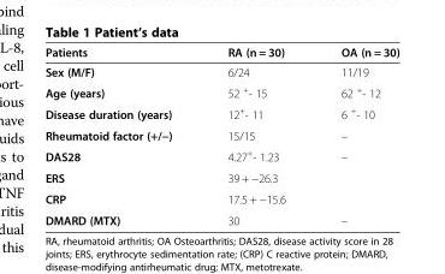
<table><thead><tr><td>Patients</td><td>RA (n = 30)</td><td>OA (n = 30)</td></tr></thead><tbody><tr><td>Sex (M/F)</td><td>6/24</td><td>11/19</td></tr><tr><td>Age (years)</td><td>52 <sup>+</sup>- 15</td><td>62 <sup>+</sup>- 12</td></tr><tr><td>Disease duration (years)</td><td>12<sup>+</sup>- 11</td><td>6 <sup>+</sup>- 10</td></tr><tr><td>Rheumatoid factor (+/−)</td><td>15/15</td><td>–</td></tr><tr><td>DAS28</td><td>4.27<sup>+</sup>- 1.23</td><td rowspan="3">–</td></tr><tr><td>ERS</td><td>39 + −26.3</td></tr><tr><td>CRP</td><td>17.5 + −15.6</td></tr><tr><td>DMARD (MTX)</td><td>30</td><td>–</td></tr></tbody></table>